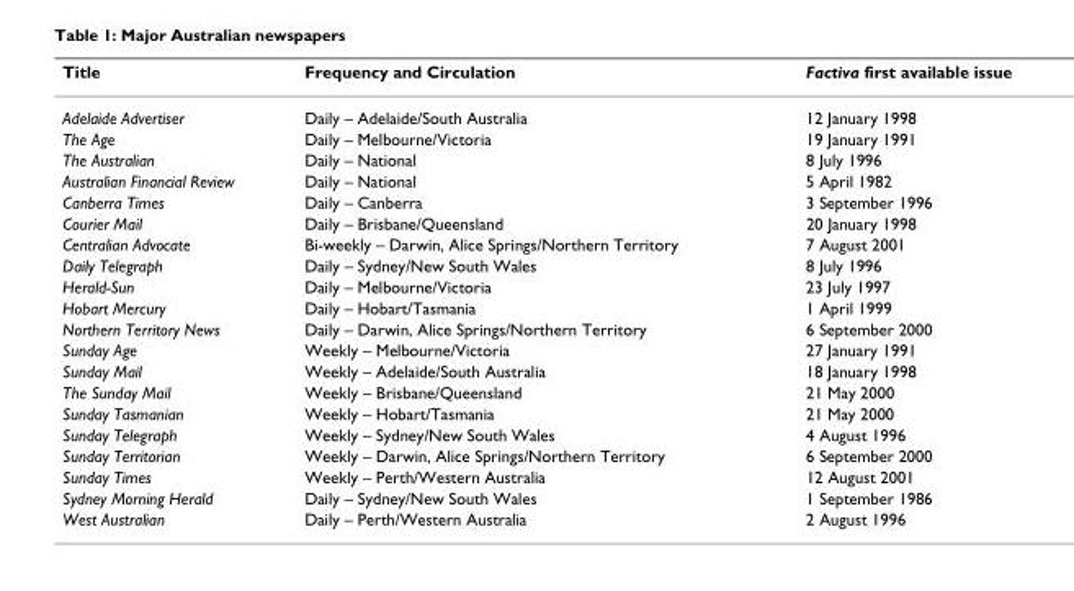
<table><thead><tr><td>Title</td><td>Frequency and Circulation</td><td>Factiva first available issue</td></tr></thead><tbody><tr><td>Adelaide Advertiser</td><td>Daily – Adelaide/South Australia</td><td>12 January 1998</td></tr><tr><td>The Age</td><td>Daily – Melbourne/Victoria</td><td>19 January 1991</td></tr><tr><td>The Australian</td><td>Daily – National</td><td>8 July 1996</td></tr><tr><td>Australian Financial Review</td><td>Daily – National</td><td>5 April 1982</td></tr><tr><td>Canberra Times</td><td>Daily – Canberra</td><td>3 September 1996</td></tr><tr><td>Courier Mail</td><td>Daily – Brisbane/Queensland</td><td>20 January 1998</td></tr><tr><td>Centralian Advocate</td><td>Bi-weekly – Darwin, Alice Springs/Northern Territory</td><td>7 August 2001</td></tr><tr><td>Daily Telegraph</td><td>Daily – Sydney/New South Wales</td><td>8 July 1996</td></tr><tr><td>Herald-Sun</td><td>Daily – Melbourne/Victoria</td><td>23 July 1997</td></tr><tr><td>Hobart Mercury</td><td>Daily – Hobart/Tasmania</td><td>1 April 1999</td></tr><tr><td>Northern Territory News</td><td>Daily – Darwin, Alice Springs/Northern Territory</td><td>6 September 2000</td></tr><tr><td>Sunday Age</td><td>Weekly – Melbourne/Victoria</td><td>27 January 1991</td></tr><tr><td>Sunday Mail</td><td>Weekly – Adelaide/South Australia</td><td>18 January 1998</td></tr><tr><td>The Sunday Mail</td><td>Weekly – Brisbane/Queensland</td><td>21 May 2000</td></tr><tr><td>Sunday Tasmanian</td><td>Weekly – Hobart/Tasmania</td><td>21 May 2000</td></tr><tr><td>Sunday Telegraph</td><td>Weekly – Sydney/New South Wales</td><td>4 August 1996</td></tr><tr><td>Sunday Territorian</td><td>Weekly – Darwin, Alice Springs/Northern Territory</td><td>6 September 2000</td></tr><tr><td>Sunday Times</td><td>Weekly – Perth/Western Australia</td><td>12 August 2001</td></tr><tr><td>Sydney Morning Herald</td><td>Daily – Sydney/New South Wales</td><td>1 September 1986</td></tr><tr><td>West Australian</td><td>Daily – Perth/Western Australia</td><td>2 August 1996</td></tr></tbody></table>